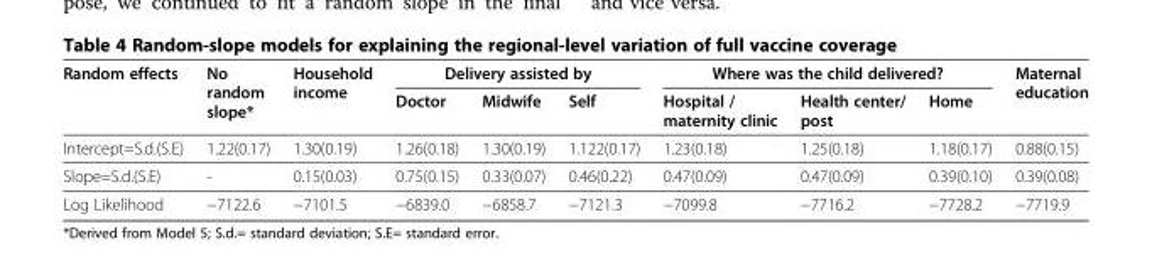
<table><thead><tr><td rowspan="2">Random effects</td><td rowspan="2">No random slope*</td><td rowspan="2">Household income</td><td colspan="3">Delivery assisted by</td><td colspan="3">Where was the child delivered?</td><td rowspan="2">Maternal education</td></tr><tr><td>Doctor</td><td>Midwife</td><td>Self</td><td>Hospital / maternity clinic</td><td>Health center/ post</td><td>Home</td></tr></thead><tbody><tr><td>Intercept=S.d.(S.E)</td><td>1.22(0.17)</td><td>1.30(0.19)</td><td>1.26(0.18)</td><td>1.30(0.19)</td><td>1.122(0.17)</td><td>1.23(0.18)</td><td>1.25(0.18)</td><td>1.18(0.17)</td><td>0.88(0.15)</td></tr><tr><td>Slope=S.d.(S.E)</td><td>-</td><td>0.15(0.03)</td><td>0.75(0.15)</td><td>0.33(0.07)</td><td>0.46(0.22)</td><td>0.47(0.09)</td><td>0.47(0.09)</td><td>0.39(0.10)</td><td>0.39(0.08)</td></tr><tr><td>Log Likelihood</td><td>−7122.6</td><td>−7101.5</td><td>−6839.0</td><td>−6858.7</td><td>−7121.3</td><td>−7099.8</td><td>−7716.2</td><td>−7728.2</td><td>−7719.9</td></tr></tbody></table>